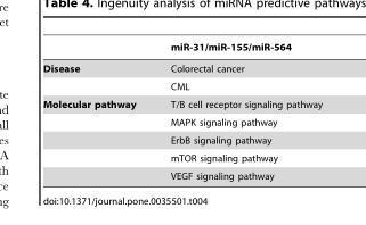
<table><thead><tr><td></td><td>miR-31/miR-155/miR-564</td></tr></thead><tbody><tr><td rowspan="2">Disease</td><td>Colorectal cancer</td></tr><tr><td>CML</td></tr><tr><td rowspan="5">Molecular pathway</td><td>T/B cell receptor signaling pathway</td></tr><tr><td>MAPK signaling pathway</td></tr><tr><td>ErbB signaling pathway</td></tr><tr><td>mTOR signaling pathway</td></tr><tr><td>VEGF signaling pathway</td></tr></tbody></table>